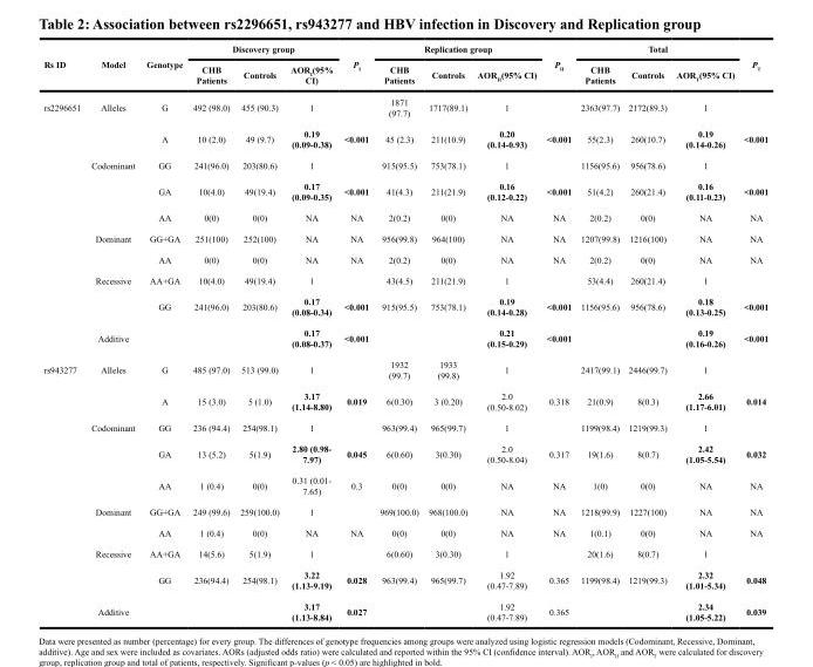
<table><thead><tr><td rowspan="2">Rs ID</td><td rowspan="2">Model</td><td rowspan="2">Genotype</td><td colspan="3">Discovery group</td><td rowspan="2">P<sub>I</sub></td><td colspan="3">Replication group</td><td rowspan="2">P<sub>II</sub></td><td colspan="3">Total</td><td rowspan="2">P<sub>T</sub></td></tr><tr><td>CHB Patients</td><td>Controls</td><td>AOR<sub>I</sub>(95% CI)</td><td>CHB Patients</td><td>Controls</td><td>AOR<sub>II</sub>(95% CI)</td><td>CHB Patients</td><td>Controls</td><td>AOR<sub>T</sub>(95% CI)</td></tr></thead><tbody><tr><td rowspan="10">rs2296651</td><td>Alleles</td><td>G</td><td>492 (98.0)</td><td>455 (90.3)</td><td>1</td><td></td><td>1871 (97.7)</td><td>1717(89.1)</td><td>1</td><td></td><td>2363(97.7)</td><td>2172(89.3)</td><td>1</td><td></td></tr><tr><td></td><td>A</td><td>10 (2.0)</td><td>49 (9.7)</td><td>0.19 (0.09-0.38)</td><td>&lt;0.001</td><td>45 (2.3)</td><td>211(10.9)</td><td>0.20 (0.14-0.93)</td><td>&lt;0.001</td><td>55(2.3)</td><td>260(10.7)</td><td>0.19 (0.14-0.26)</td><td>&lt;0.001</td></tr><tr><td>Codominant</td><td>GG</td><td>241(96.0)</td><td>203(80.6)</td><td>1</td><td></td><td>915(95.5)</td><td>753(78.1)</td><td>1</td><td></td><td>1156(95.6)</td><td>956(78.6)</td><td>1</td><td></td></tr><tr><td></td><td>GA</td><td>10(4.0)</td><td>49(19.4)</td><td>0.17 (0.09-0.35)</td><td>&lt;0.001</td><td>41(4.3)</td><td>211(21.9)</td><td>0.16 (0.12-0.22)</td><td>&lt;0.001</td><td>51(4.2)</td><td>260(21.4)</td><td>0.16 (0.11-0.23)</td><td>&lt;0.001</td></tr><tr><td></td><td>AA</td><td>0(0)</td><td>0(0)</td><td>NA</td><td>NA</td><td>2(0.2)</td><td>0(0)</td><td>NA</td><td>NA</td><td>2(0.2)</td><td>0(0)</td><td>NA</td><td>NA</td></tr><tr><td>Dominant</td><td>GG+GA</td><td>251(100)</td><td>252(100)</td><td>NA</td><td>NA</td><td>956(99.8)</td><td>964(100)</td><td>NA</td><td>NA</td><td>1207(99.8)</td><td>1216(100)</td><td>NA</td><td>NA</td></tr><tr><td></td><td>AA</td><td>0(0)</td><td>0(0)</td><td>NA</td><td>NA</td><td>2(0.2)</td><td>0(0)</td><td>NA</td><td>NA</td><td>2(0.2)</td><td>0(0)</td><td>NA</td><td>NA</td></tr><tr><td>Recessive</td><td>AA+GA</td><td>10(4.0)</td><td>49(19.4)</td><td>1</td><td></td><td>43(4.5)</td><td>211(21.9)</td><td>1</td><td></td><td>53(4.4)</td><td>260(21.4)</td><td>1</td><td></td></tr><tr><td></td><td>GG</td><td>241(96.0)</td><td>203(80.6)</td><td>0.17 (0.08-0.34)</td><td>&lt;0.001</td><td>915(95.5)</td><td>753(78.1)</td><td>0.19 (0.14-0.28)</td><td>&lt;0.001</td><td>1156(95.6)</td><td>956(78.6)</td><td>0.18 (0.13-0.25)</td><td>&lt;0.001</td></tr><tr><td>Additive</td><td></td><td></td><td></td><td>0.17 (0.08-0.37)</td><td>&lt;0.001</td><td></td><td></td><td>0.21 (0.15-0.29)</td><td>&lt;0.001</td><td></td><td></td><td>0.19 (0.16-0.26)</td><td>&lt;0.001</td></tr><tr><td rowspan="10">rs943277</td><td>Alleles</td><td>G</td><td>485 (97.0)</td><td>513 (99.0)</td><td>1</td><td></td><td>1932 (99.7)</td><td>1933 (99.8)</td><td>1</td><td></td><td>2417(99.1)</td><td>2446(99.7)</td><td>1</td><td></td></tr><tr><td></td><td>A</td><td>15 (3.0)</td><td>5 (1.0)</td><td>3.17 (1.14-8.80)</td><td>0.019</td><td>6(0.30)</td><td>3 (0.20)</td><td>2.0 (0.50-8.02)</td><td>0.318</td><td>21(0.9)</td><td>8(0.3)</td><td>2.66 (1.17-6.01)</td><td>0.014</td></tr><tr><td>Codominant</td><td>GG</td><td>236 (94.4)</td><td>254(98.1)</td><td>1</td><td></td><td>963(99.4)</td><td>965(99.7)</td><td>1</td><td></td><td>1199(98.4)</td><td>1219(99.3)</td><td>1</td><td></td></tr><tr><td></td><td>GA</td><td>13 (5.2)</td><td>5(1.9)</td><td>2.80 (0.98- 7.97)</td><td>0.045</td><td>6(0.60)</td><td>3(0.30)</td><td>2.0 (0.50-8.04)</td><td>0.317</td><td>19(1.6)</td><td>8(0.7)</td><td>2.42 (1.05-5.54)</td><td>0.032</td></tr><tr><td></td><td>AA</td><td>1 (0.4)</td><td>0(0)</td><td>0.31 (0.01- 7.65)</td><td>0.3</td><td>0(0)</td><td>0(0)</td><td>NA</td><td>NA</td><td>1(0)</td><td>0(0)</td><td>NA</td><td>NA</td></tr><tr><td>Dominant</td><td>GG+GA</td><td>249 (99.6)</td><td>259(100.0)</td><td>1</td><td></td><td>969(100.0)</td><td>968(100.0)</td><td>NA</td><td>NA</td><td>1218(99.9)</td><td>1227(100)</td><td>NA</td><td>NA</td></tr><tr><td></td><td>AA</td><td>1 (0.4)</td><td>0(0)</td><td>NA</td><td>NA</td><td>0(0)</td><td>0(0)</td><td>NA</td><td>NA</td><td>1(0.1)</td><td>0(0)</td><td>NA</td><td>NA</td></tr><tr><td>Recessive</td><td>AA+GA</td><td>14(5.6)</td><td>5(1.9)</td><td>1</td><td></td><td>6(0.60)</td><td>3(0.30)</td><td>1</td><td></td><td>20(1.6)</td><td>8(0.7)</td><td>1</td><td></td></tr><tr><td></td><td>GG</td><td>236(94.4)</td><td>254(98.1)</td><td>3.22 (1.13-9.19)</td><td>0.028</td><td>963(99.4)</td><td>965(99.7)</td><td>1.92 (0.47-7.89)</td><td>0.365</td><td>1199(98.4)</td><td>1219(99.3)</td><td>2.32 (1.01-5.34)</td><td>0.048</td></tr><tr><td>Additive</td><td></td><td></td><td></td><td>3.17 (1.13-8.84)</td><td>0.027</td><td></td><td></td><td>1.92 (0.47-7.89)</td><td>0.365</td><td></td><td></td><td>2.34 (1.05-5.22)</td><td>0.039</td></tr></tbody></table>